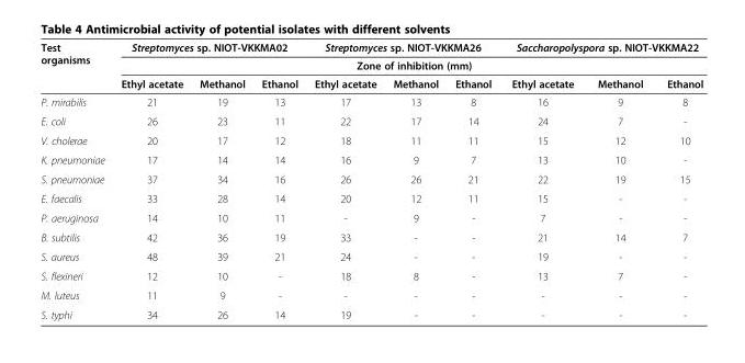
<table><thead><tr><td rowspan="3">Test organisms</td><td colspan="3">Streptomyces sp. NIOT-VKKMA02</td><td colspan="3">Streptomyces sp. NIOT-VKKMA26</td><td colspan="3">Saccharopolyspora sp. NIOT-VKKMA22</td></tr><tr><td colspan="9">Zone of inhibition (mm)</td></tr><tr><td>Ethyl acetate</td><td>Methanol</td><td>Ethanol</td><td>Ethyl acetate</td><td>Methanol</td><td>Ethanol</td><td>Ethyl acetate</td><td>Methanol</td><td>Ethanol</td></tr></thead><tbody><tr><td>P. mirabilis</td><td>21</td><td>19</td><td>13</td><td>17</td><td>13</td><td>8</td><td>16</td><td>9</td><td>8</td></tr><tr><td>E. coli</td><td>26</td><td>23</td><td>11</td><td>22</td><td>17</td><td>14</td><td>24</td><td>7</td><td>-</td></tr><tr><td>V. cholerae</td><td>20</td><td>17</td><td>12</td><td>18</td><td>11</td><td>11</td><td>15</td><td>12</td><td>10</td></tr><tr><td>K. pneumoniae</td><td>17</td><td>14</td><td>14</td><td>16</td><td>9</td><td>7</td><td>13</td><td>10</td><td>-</td></tr><tr><td>S. pneumoniae</td><td>37</td><td>34</td><td>16</td><td>26</td><td>26</td><td>21</td><td>22</td><td>19</td><td>15</td></tr><tr><td>E. faecalis</td><td>33</td><td>28</td><td>14</td><td>20</td><td>12</td><td>11</td><td>15</td><td>-</td><td>-</td></tr><tr><td>P. aeruginosa</td><td>14</td><td>10</td><td>11</td><td>-</td><td>9</td><td>-</td><td>7</td><td>-</td><td>-</td></tr><tr><td>B. subtilis</td><td>42</td><td>36</td><td>19</td><td>33</td><td>-</td><td>-</td><td>21</td><td>14</td><td>7</td></tr><tr><td>S. aureus</td><td>48</td><td>39</td><td>21</td><td>24</td><td>-</td><td>-</td><td>19</td><td>-</td><td>-</td></tr><tr><td>S. flexineri</td><td>12</td><td>10</td><td>-</td><td>18</td><td>8</td><td>-</td><td>13</td><td>7</td><td>-</td></tr><tr><td>M. luteus</td><td>11</td><td>9</td><td>-</td><td>-</td><td>-</td><td>-</td><td>-</td><td>-</td><td>-</td></tr><tr><td>S. typhi</td><td>34</td><td>26</td><td>14</td><td>19</td><td>-</td><td>-</td><td>-</td><td>-</td><td>-</td></tr></tbody></table>